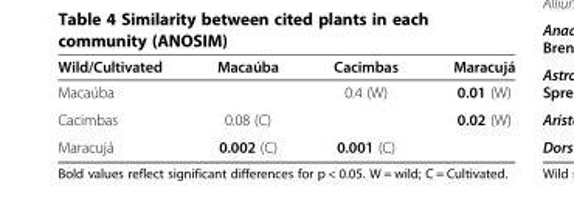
<table><thead><tr><td>Wild/Cultivated</td><td>Macaúba</td><td>Cacimbas</td><td>Maracujá</td></tr></thead><tbody><tr><td>Macaúba</td><td></td><td>0.4 (W)</td><td>0.01 (W)</td></tr><tr><td>Cacimbas</td><td>0.08 (C)</td><td></td><td>0.02 (W)</td></tr><tr><td>Maracujá</td><td>0.002 (C)</td><td>0.001 (C)</td><td></td></tr></tbody></table>